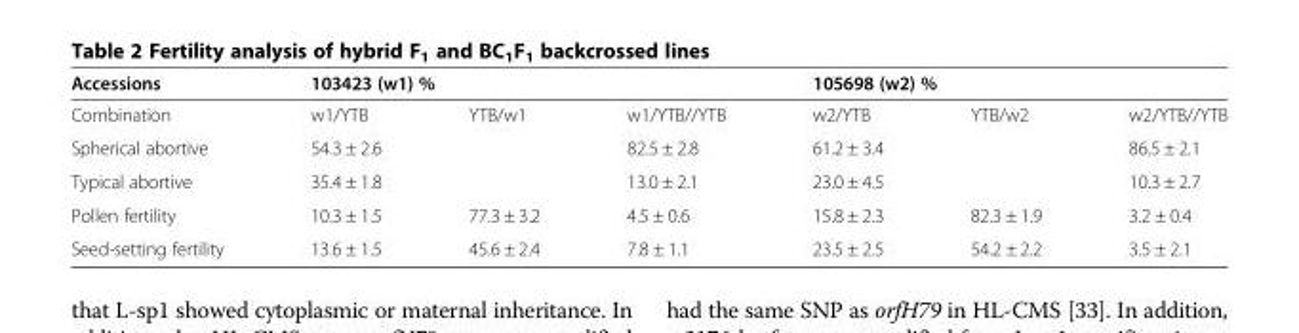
<table><thead><tr><td rowspan="2">Accessions Combination</td><td colspan="3">103423 (w1) %</td><td colspan="3">105698 (w2) %</td></tr><tr><td>w1/YTB</td><td>YTB/w1</td><td>w1/YTB//YTB</td><td>w2/YTB</td><td>YTB/w2</td><td>w2/YTB//YTB</td></tr></thead><tbody><tr><td>Spherical abortive</td><td>54.3 ± 2.6</td><td></td><td>82.5 ± 2.8</td><td>61.2 ± 3.4</td><td></td><td>86.5 ± 2.1</td></tr><tr><td>Typical abortive</td><td>35.4 ± 1.8</td><td></td><td>13.0 ± 2.1</td><td>23.0 ± 4.5</td><td></td><td>10.3 ± 2.7</td></tr><tr><td>Pollen fertility</td><td>10.3 ± 1.5</td><td>77.3 ± 3.2</td><td>4.5 ± 0.6</td><td>15.8 ± 2.3</td><td>82.3 ± 1.9</td><td>3.2 ± 0.4</td></tr><tr><td>Seed-setting fertility</td><td>13.6 ± 1.5</td><td>45.6 ± 2.4</td><td>7.8 ± 1.1</td><td>23.5 ± 2.5</td><td>54.2 ± 2.2</td><td>3.5 ± 2.1</td></tr></tbody></table>